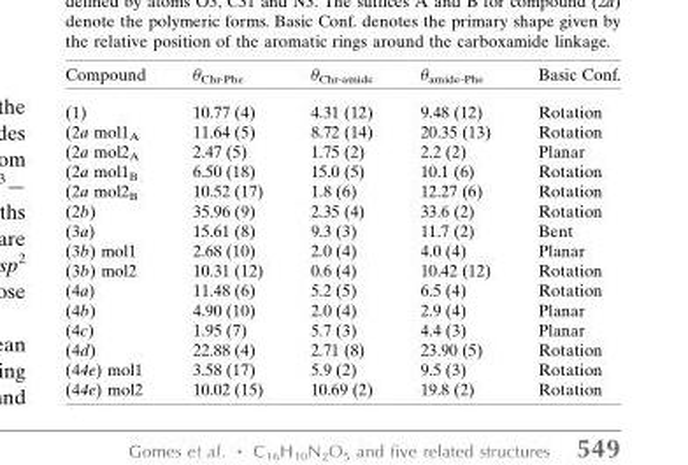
<table><thead><tr><td>Compound</td><td>θ<sub>Chr-Phe</sub></td><td>θ<sub>Chr-amide</sub></td><td>θ<sub>amide-Phe</sub></td><td>Basic Conf.</td></tr></thead><tbody><tr><td>(1)</td><td>10.77 (4)</td><td>4.31 (12)</td><td>9.48 (12)</td><td>Rotation</td></tr><tr><td>(2a mol1<sub>A</sub></td><td>11.64 (5)</td><td>8.72 (14)</td><td>20.35 (13)</td><td>Rotation</td></tr><tr><td>(2a mol2<sub>A</sub></td><td>2.47 (5)</td><td>1.75 (2)</td><td>2.2 (2)</td><td>Planar</td></tr><tr><td>(2a mol1<sub>B</sub></td><td>6.50 (18)</td><td>15.0 (5)</td><td>10.1 (6)</td><td>Rotation</td></tr><tr><td>(2a mol2<sub>B</sub></td><td>10.52 (17)</td><td>1.8 (6)</td><td>12.27 (6)</td><td>Rotation</td></tr><tr><td>(2b)</td><td>35.96 (9)</td><td>2.35 (4)</td><td>33.6 (2)</td><td>Rotation</td></tr><tr><td>(3a)</td><td>15.61 (8)</td><td>9.3 (3)</td><td>11.7 (2)</td><td>Bent</td></tr><tr><td>(3b) mol1</td><td>2.68 (10)</td><td>2.0 (4)</td><td>4.0 (4)</td><td>Planar</td></tr><tr><td>(3b) mol2</td><td>10.31 (12)</td><td>0.6 (4)</td><td>10.42 (12)</td><td>Rotation</td></tr><tr><td>(4a)</td><td>11.48 (6)</td><td>5.2 (5)</td><td>6.5 (4)</td><td>Rotation</td></tr><tr><td>(4b)</td><td>4.90 (10)</td><td>2.0 (4)</td><td>2.9 (4)</td><td>Planar</td></tr><tr><td>(4c)</td><td>1.95 (7)</td><td>5.7 (3)</td><td>4.4 (3)</td><td>Planar</td></tr><tr><td>(4d)</td><td>22.88 (4)</td><td>2.71 (8)</td><td>23.90 (5)</td><td>Rotation</td></tr><tr><td>(44e) mol1</td><td>3.58 (17)</td><td>5.9 (2)</td><td>9.5 (3)</td><td>Rotation</td></tr><tr><td>(44e) mol2</td><td>10.02 (15)</td><td>10.69 (2)</td><td>19.8 (2)</td><td>Rotation</td></tr></tbody></table>